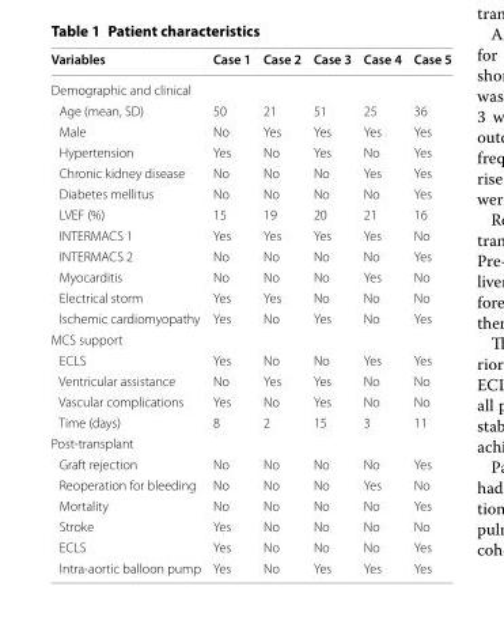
<table><thead><tr><td>Variables</td><td>Case 1</td><td>Case 2</td><td>Case 3</td><td>Case 4</td><td>Case 5</td></tr></thead><tbody><tr><td colspan="6">Demographic and clinical</td></tr><tr><td>Age (mean, SD)</td><td>50</td><td>21</td><td>51</td><td>25</td><td>36</td></tr><tr><td>Male</td><td>No</td><td>Yes</td><td>Yes</td><td>Yes</td><td>Yes</td></tr><tr><td>Hypertension</td><td>Yes</td><td>No</td><td>Yes</td><td>No</td><td>Yes</td></tr><tr><td>Chronic kidney disease</td><td>No</td><td>No</td><td>No</td><td>Yes</td><td>Yes</td></tr><tr><td>Diabetes mellitus</td><td>No</td><td>No</td><td>No</td><td>No</td><td>Yes</td></tr><tr><td>LVEF (%)</td><td>15</td><td>19</td><td>20</td><td>21</td><td>16</td></tr><tr><td>INTERMACS 1</td><td>Yes</td><td>Yes</td><td>Yes</td><td>Yes</td><td>No</td></tr><tr><td>INTERMACS 2</td><td>No</td><td>No</td><td>No</td><td>No</td><td>Yes</td></tr><tr><td>Myocarditis</td><td>No</td><td>No</td><td>No</td><td>Yes</td><td>No</td></tr><tr><td>Electrical storm</td><td>Yes</td><td>Yes</td><td>No</td><td>No</td><td>No</td></tr><tr><td>Ischemic cardiomyopathy</td><td>Yes</td><td>No</td><td>Yes</td><td>No</td><td>Yes</td></tr><tr><td colspan="6">MCS support</td></tr><tr><td>ECLS</td><td>Yes</td><td>No</td><td>No</td><td>Yes</td><td>Yes</td></tr><tr><td>Ventricular assistance</td><td>No</td><td>Yes</td><td>Yes</td><td>No</td><td>No</td></tr><tr><td>Vascular complications</td><td>Yes</td><td>No</td><td>Yes</td><td>No</td><td>No</td></tr><tr><td>Time (days)</td><td>8</td><td>2</td><td>15</td><td>3</td><td>11</td></tr><tr><td colspan="6">Post‑transplant</td></tr><tr><td>Graft rejection</td><td>No</td><td>No</td><td>No</td><td>No</td><td>Yes</td></tr><tr><td>Reoperation for bleeding</td><td>No</td><td>No</td><td>No</td><td>Yes</td><td>No</td></tr><tr><td>Mortality</td><td>No</td><td>No</td><td>No</td><td>No</td><td>Yes</td></tr><tr><td>Stroke</td><td>Yes</td><td>No</td><td>No</td><td>No</td><td>No</td></tr><tr><td>ECLS</td><td>Yes</td><td>No</td><td>No</td><td>No</td><td>Yes</td></tr><tr><td>Intra‑aortic balloon pump</td><td>Yes</td><td>No</td><td>Yes</td><td>Yes</td><td>Yes</td></tr></tbody></table>